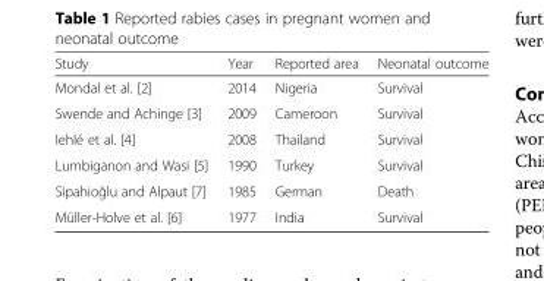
<table><thead><tr><td>Study</td><td>Year</td><td>Reported area</td><td>Neonatal outcome</td></tr></thead><tbody><tr><td>Mondal et al. [2]</td><td>2014</td><td>Nigeria</td><td>Survival</td></tr><tr><td>Swende and Achinge [3]</td><td>2009</td><td>Cameroon</td><td>Survival</td></tr><tr><td>Iehlé et al. [4]</td><td>2008</td><td>Thailand</td><td>Survival</td></tr><tr><td>Lumbiganon and Wasi [5]</td><td>1990</td><td>Turkey</td><td>Survival</td></tr><tr><td>Sipahioğlu and Alpaut [7]</td><td>1985</td><td>German</td><td>Death</td></tr><tr><td>Müller-Holve et al. [6]</td><td>1977</td><td>India</td><td>Survival</td></tr></tbody></table>